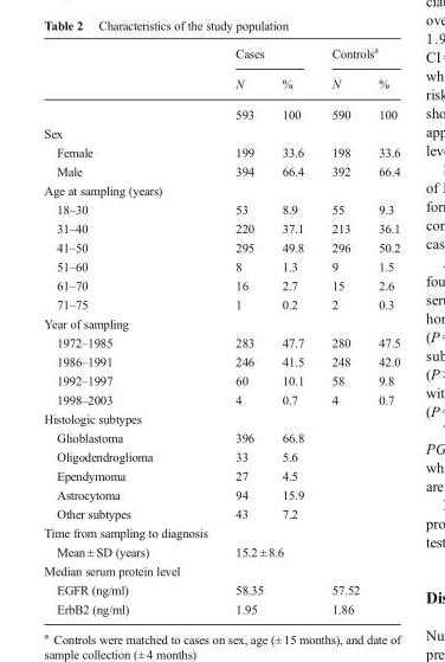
<table><thead><tr><td rowspan="2"></td><td colspan="2">Cases</td><td colspan="2">Controls<sup>a</sup></td></tr><tr><td>N</td><td>%</td><td>N</td><td>%</td></tr></thead><tbody><tr><td></td><td>593</td><td>100</td><td>590</td><td>100</td></tr><tr><td colspan="5">Sex</td></tr><tr><td>Female</td><td>199</td><td>33.6</td><td>198</td><td>33.6</td></tr><tr><td>Male</td><td>394</td><td>66.4</td><td>392</td><td>66.4</td></tr><tr><td colspan="5">Age at sampling (years)</td></tr><tr><td>18–30</td><td>53</td><td>8.9</td><td>55</td><td>9.3</td></tr><tr><td>31–40</td><td>220</td><td>37.1</td><td>213</td><td>36.1</td></tr><tr><td>41–50</td><td>295</td><td>49.8</td><td>296</td><td>50.2</td></tr><tr><td>51–60</td><td>8</td><td>1.3</td><td>9</td><td>1.5</td></tr><tr><td>61–70</td><td>16</td><td>2.7</td><td>15</td><td>2.6</td></tr><tr><td>71–75</td><td>1</td><td>0.2</td><td>2</td><td>0.3</td></tr><tr><td colspan="5">Year of sampling</td></tr><tr><td>1972–1985</td><td>283</td><td>47.7</td><td>280</td><td>47.5</td></tr><tr><td>1986–1991</td><td>246</td><td>41.5</td><td>248</td><td>42.0</td></tr><tr><td>1992–1997</td><td>60</td><td>10.1</td><td>58</td><td>9.8</td></tr><tr><td>1998–2003</td><td>4</td><td>0.7</td><td>4</td><td>0.7</td></tr><tr><td colspan="5">Histologic subtypes</td></tr><tr><td>Glioblastoma</td><td>396</td><td>66.8</td><td></td><td></td></tr><tr><td>Oligodendroglioma</td><td>33</td><td>5.6</td><td></td><td></td></tr><tr><td>Ependymoma</td><td>27</td><td>4.5</td><td></td><td></td></tr><tr><td>Astrocytoma</td><td>94</td><td>15.9</td><td></td><td></td></tr><tr><td>Other subtypes</td><td>43</td><td>7.2</td><td></td><td></td></tr><tr><td colspan="5">Time from sampling to diagnosis</td></tr><tr><td>Mean ± SD (years)</td><td colspan="2">15.2 ± 8.6</td><td colspan="2"></td></tr><tr><td colspan="5">Median serum protein level</td></tr><tr><td>EGFR (ng/ml)</td><td colspan="2">58.35</td><td colspan="2">57.52</td></tr><tr><td>ErbB2 (ng/ml)</td><td colspan="2">1.95</td><td colspan="2">1.86</td></tr></tbody></table>